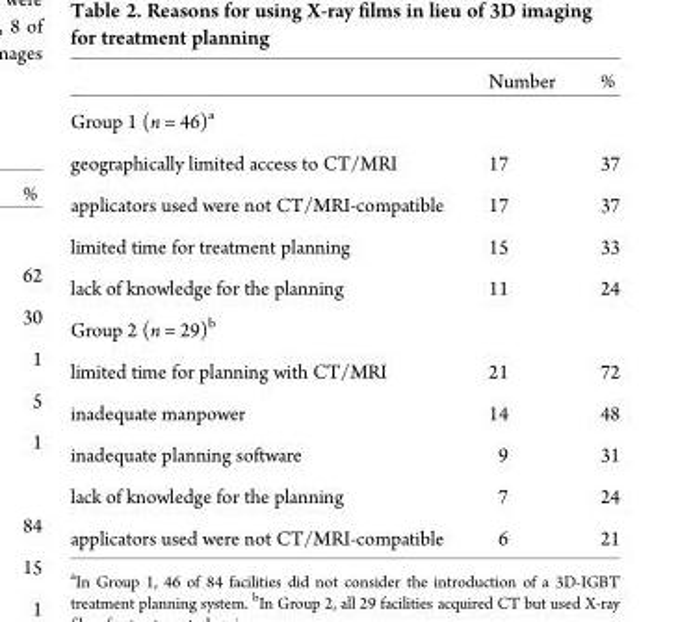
<table><thead><tr><td></td><td>Number</td><td>%</td></tr></thead><tbody><tr><td colspan="3">Group 1 (n = 46)<sup>a</sup></td></tr><tr><td>geographically limited access to CT/MRI</td><td>17</td><td>37</td></tr><tr><td>applicators used were not CT/MRI-compatible</td><td>17</td><td>37</td></tr><tr><td>limited time for treatment planning</td><td>15</td><td>33</td></tr><tr><td>lack of knowledge for the planning</td><td>11</td><td>24</td></tr><tr><td colspan="3">Group 2 (n = 29)<sup>b</sup></td></tr><tr><td>limited time for planning with CT/MRI</td><td>21</td><td>72</td></tr><tr><td>inadequate manpower</td><td>14</td><td>48</td></tr><tr><td>inadequate planning software</td><td>9</td><td>31</td></tr><tr><td>lack of knowledge for the planning</td><td>7</td><td>24</td></tr><tr><td>applicators used were not CT/MRI-compatible</td><td>6</td><td>21</td></tr></tbody></table>